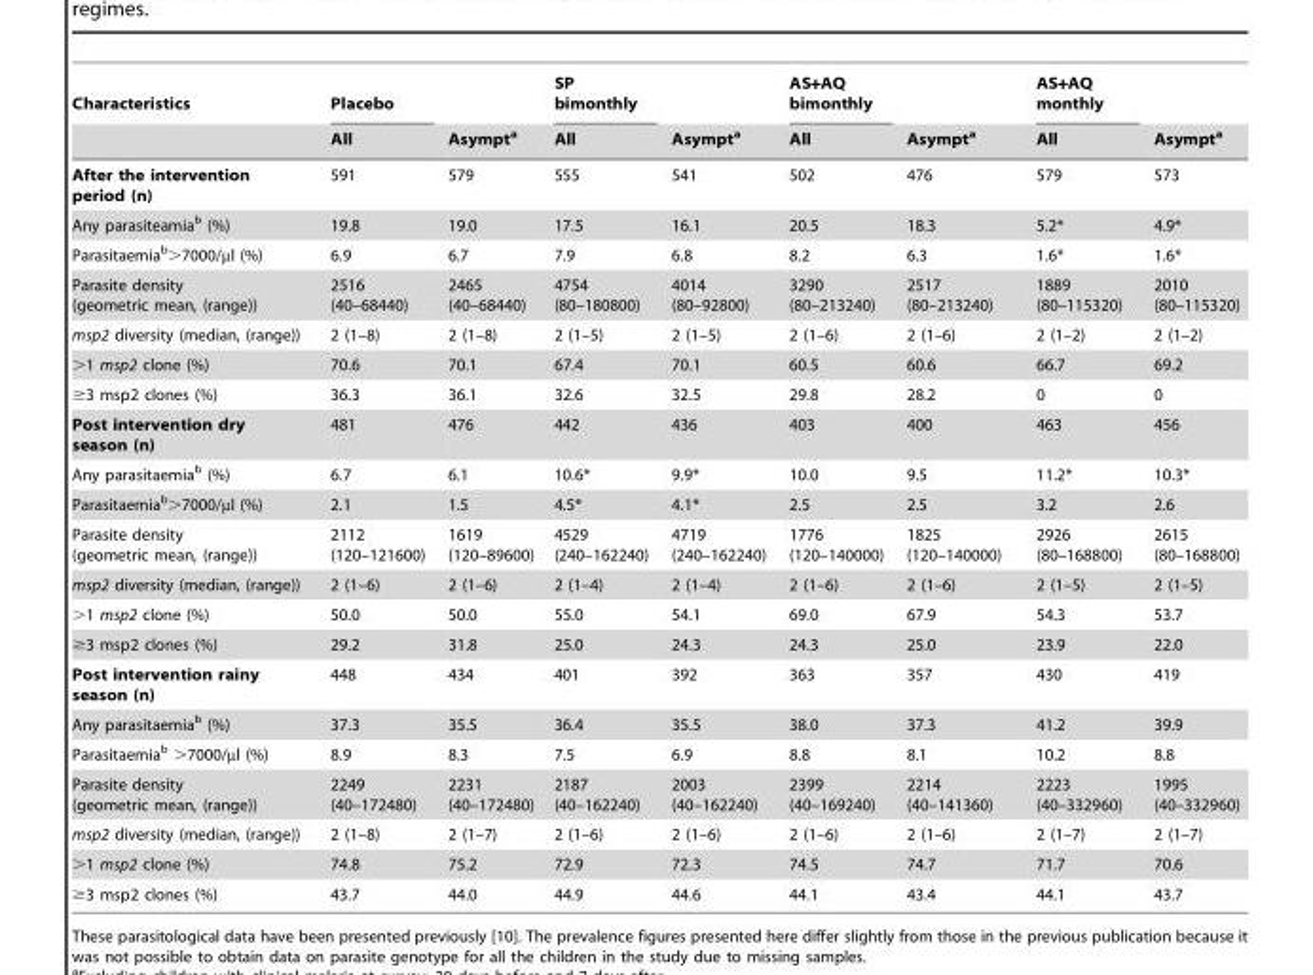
<table><thead><tr><td rowspan="2">Characteristics</td><td rowspan="2">Placebo All</td><td rowspan="2">Asympt<sup>a</sup></td><td rowspan="2">SP bimonthly All</td><td rowspan="2">Asympt<sup>a</sup></td><td rowspan="2">AS+AQ bimonthly All</td><td rowspan="2">Asympt<sup>a</sup></td><td rowspan="2">AS+AQ monthly All</td><td rowspan="2">Asympt<sup>a</sup></td></tr><tr></tr></thead><tbody><tr><td>After the intervention period (n)</td><td>591</td><td>579</td><td>555</td><td>541</td><td>502</td><td>476</td><td>579</td><td>573</td></tr><tr><td>Any parasiteamia<sup>b</sup> (%)</td><td>19.8</td><td>19.0</td><td>17.5</td><td>16.1</td><td>20.5</td><td>18.3</td><td>5.2*</td><td>4.9*</td></tr><tr><td>Parasitaemia<sup>b</sup>&gt;7000/µl (%)</td><td>6.9</td><td>6.7</td><td>7.9</td><td>6.8</td><td>8.2</td><td>6.3</td><td>1.6*</td><td>1.6*</td></tr><tr><td>Parasite density (geometric mean, (range))</td><td>2516 (40–68440)</td><td>2465 (40–68440)</td><td>4754 (80–180800)</td><td>4014 (80–92800)</td><td>3290 (80–213240)</td><td>2517 (80–213240)</td><td>1889 (80–115320)</td><td>2010 (80–115320)</td></tr><tr><td>msp2 diversity (median, (range))</td><td>2 (1–8)</td><td>2 (1–8)</td><td>2 (1–5)</td><td>2 (1–5)</td><td>2 (1–6)</td><td>2 (1–6)</td><td>2 (1–2)</td><td>2 (1–2)</td></tr><tr><td>&gt;1 msp2 clone (%)</td><td>70.6</td><td>70.1</td><td>67.4</td><td>70.1</td><td>60.5</td><td>60.6</td><td>66.7</td><td>69.2</td></tr><tr><td>≥3 msp2 clones (%)</td><td>36.3</td><td>36.1</td><td>32.6</td><td>32.5</td><td>29.8</td><td>28.2</td><td>0</td><td>0</td></tr><tr><td>Post intervention dry season (n)</td><td>481</td><td>476</td><td>442</td><td>436</td><td>403</td><td>400</td><td>463</td><td>456</td></tr><tr><td>Any parasitaemia<sup>b</sup> (%)</td><td>6.7</td><td>6.1</td><td>10.6*</td><td>9.9*</td><td>10.0</td><td>9.5</td><td>11.2*</td><td>10.3*</td></tr><tr><td>Parasitaemia<sup>b</sup>&gt;7000/µl (%)</td><td>2.1</td><td>1.5</td><td>4.5*</td><td>4.1*</td><td>2.5</td><td>2.5</td><td>3.2</td><td>2.6</td></tr><tr><td>Parasite density (geometric mean, (range))</td><td>2112 (120–121600)</td><td>1619 (120–89600)</td><td>4529 (240–162240)</td><td>4719 (240–162240)</td><td>1776 (120–140000)</td><td>1825 (120–140000)</td><td>2926 (80–168800)</td><td>2615 (80–168800)</td></tr><tr><td>msp2 diversity (median, (range))</td><td>2 (1–6)</td><td>2 (1–6)</td><td>2 (1–4)</td><td>2 (1–4)</td><td>2 (1–6)</td><td>2 (1–6)</td><td>2 (1–5)</td><td>2 (1–5)</td></tr><tr><td>&gt;1 msp2 clone (%)</td><td>50.0</td><td>50.0</td><td>55.0</td><td>54.1</td><td>69.0</td><td>67.9</td><td>54.3</td><td>53.7</td></tr><tr><td>≥3 msp2 clones (%)</td><td>29.2</td><td>31.8</td><td>25.0</td><td>24.3</td><td>24.3</td><td>25.0</td><td>23.9</td><td>22.0</td></tr><tr><td>Post intervention rainy season (n)</td><td>448</td><td>434</td><td>401</td><td>392</td><td>363</td><td>357</td><td>430</td><td>419</td></tr><tr><td>Any parasitaemia<sup>b</sup> (%)</td><td>37.3</td><td>35.5</td><td>36.4</td><td>35.5</td><td>38.0</td><td>37.3</td><td>41.2</td><td>39.9</td></tr><tr><td>Parasitaemia<sup>b</sup> &gt;7000/µl (%)</td><td>8.9</td><td>8.3</td><td>7.5</td><td>6.9</td><td>8.8</td><td>8.1</td><td>10.2</td><td>8.8</td></tr><tr><td>Parasite density (geometric mean, (range))</td><td>2249 (40–172480)</td><td>2231 (40–172480)</td><td>2187 (40–162240)</td><td>2003 (40–162240)</td><td>2399 (40–169240)</td><td>2214 (40–141360)</td><td>2223 (40–332960)</td><td>1995 (40–332960)</td></tr><tr><td>msp2 diversity (median, (range))</td><td>2 (1–8)</td><td>2 (1–7)</td><td>2 (1–6)</td><td>2 (1–6)</td><td>2 (1–6)</td><td>2 (1–6)</td><td>2 (1–7)</td><td>2 (1–7)</td></tr><tr><td>&gt;1 msp2 clone (%)</td><td>74.8</td><td>75.2</td><td>72.9</td><td>72.3</td><td>74.5</td><td>74.7</td><td>71.7</td><td>70.6</td></tr><tr><td>≥3 msp2 clones (%)</td><td>43.7</td><td>44.0</td><td>44.9</td><td>44.6</td><td>44.1</td><td>43.4</td><td>44.1</td><td>43.7</td></tr></tbody></table>